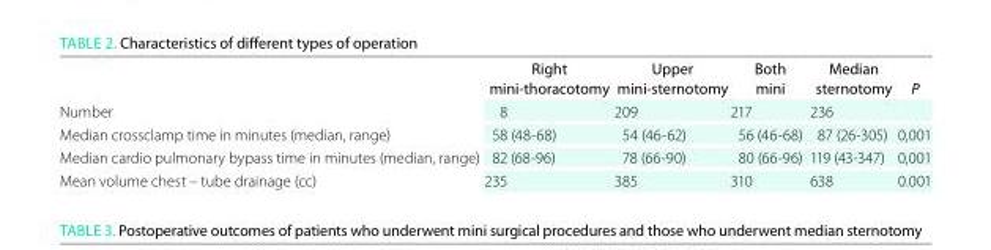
<table><thead><tr><td></td><td>Right mini-thoracotomy</td><td>upper mini-sternotomy</td><td>Both mini</td><td>Median sternotomy</td><td>P</td></tr></thead><tbody><tr><td>Number</td><td>8</td><td>209</td><td>217</td><td>236</td><td></td></tr><tr><td>Median crossclamp time in minutes (median, range)</td><td>58 (48-68)</td><td>54 (46-62)</td><td>56 (46-68)</td><td>87 (26-305)</td><td>0,001</td></tr><tr><td>Median cardio pulmonary bypass time in minutes (median, range)</td><td>82 (68-96)</td><td>78 (66-90)</td><td>80 (66-96)</td><td>119 (43-347)</td><td>0,001</td></tr><tr><td>Mean volume chest – tube drainage (cc)</td><td>235</td><td>385</td><td>310</td><td>638</td><td>0.001</td></tr></tbody></table>